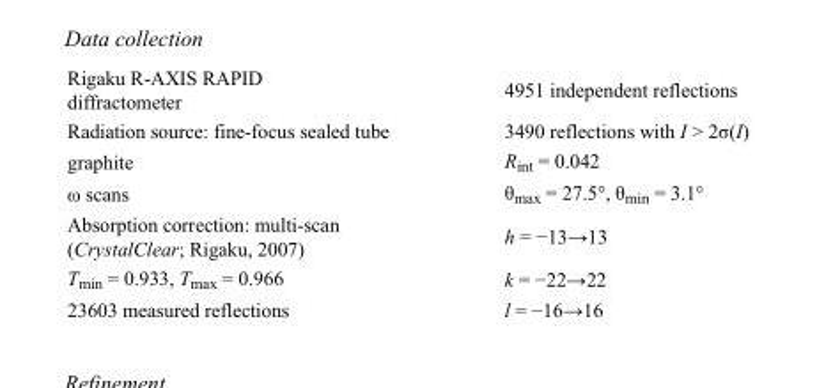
<table><tbody><tr><td>Rigaku R-AXIS RAPID diffractometer</td><td>4951 independent reflections</td></tr><tr><td>Radiation source: fine-focus sealed tube</td><td>3490 reflections with I &gt; 2σ(I)</td></tr><tr><td>graphite</td><td>R<sub>int</sub> = 0.042</td></tr><tr><td>ω scans</td><td>θ<sub>max</sub> = 27.5°, θ<sub>min</sub> = 3.1°</td></tr><tr><td>Absorption correction: multi-scan (CrystalClear; Rigaku, 2007)</td><td>h = −13→13</td></tr><tr><td>T<sub>min</sub> = 0.933, T<sub>max</sub> = 0.966</td><td>k = −22→22</td></tr><tr><td>23603 measured reflections</td><td>l = −16→16</td></tr></tbody></table>